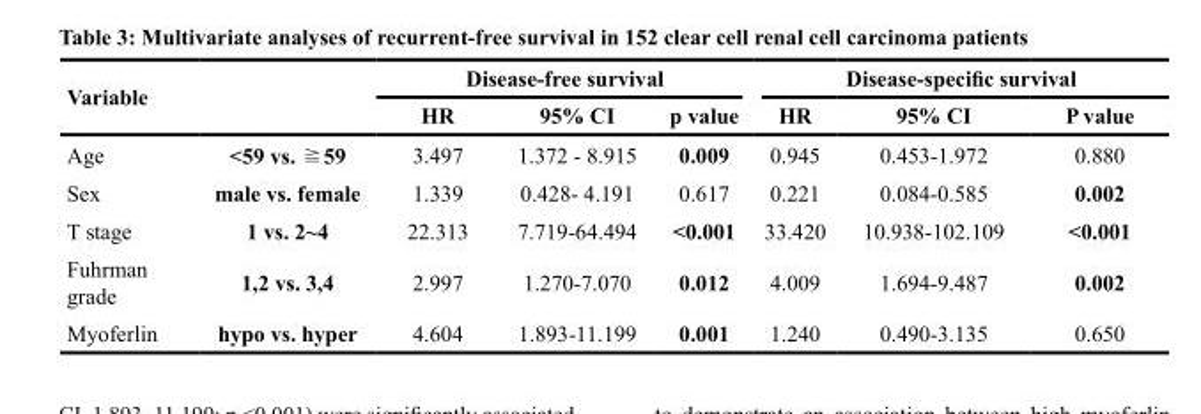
<table><thead><tr><td rowspan="2">Variable</td><td rowspan="2"></td><td colspan="3">Disease-free survival</td><td colspan="3">Disease-specific survival</td></tr><tr><td>HR</td><td>95% CI</td><td>p value</td><td>HR</td><td>95% CI</td><td>P value</td></tr></thead><tbody><tr><td>Age</td><td>&lt;59 vs. ≧59</td><td>3.497</td><td>1.372 - 8.915</td><td>0.009</td><td>0.945</td><td>0.453-1.972</td><td>0.880</td></tr><tr><td>Sex</td><td>male vs. female</td><td>1.339</td><td>0.428- 4.191</td><td>0.617</td><td>0.221</td><td>0.084-0.585</td><td>0.002</td></tr><tr><td>T stage</td><td>1 vs. 2~4</td><td>22.313</td><td>7.719-64.494</td><td>&lt;0.001</td><td>33.420</td><td>10.938-102.109</td><td>&lt;0.001</td></tr><tr><td>Fuhrman grade</td><td>1,2 vs. 3,4</td><td>2.997</td><td>1.270-7.070</td><td>0.012</td><td>4.009</td><td>1.694-9.487</td><td>0.002</td></tr><tr><td>Myoferlin</td><td>hypo vs. hyper</td><td>4.604</td><td>1.893-11.199</td><td>0.001</td><td>1.240</td><td>0.490-3.135</td><td>0.650</td></tr></tbody></table>